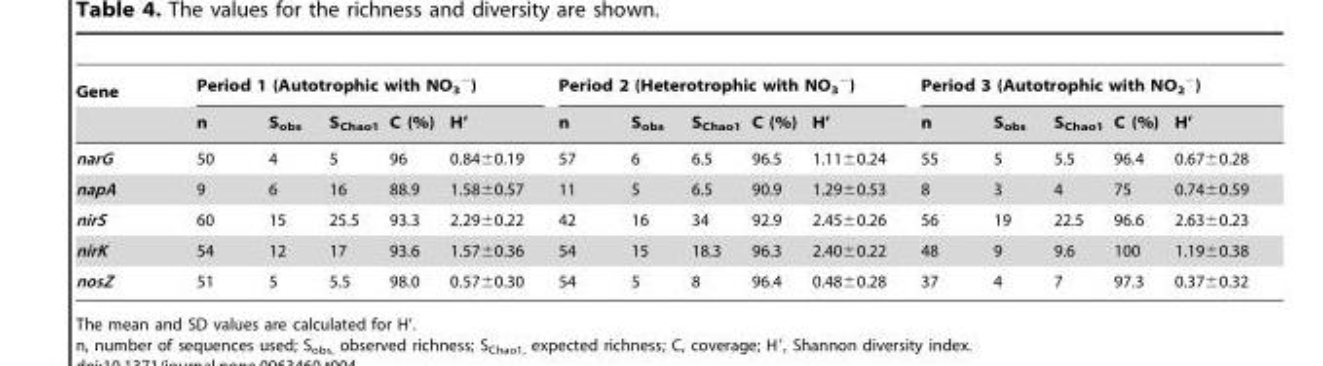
<table><thead><tr><td rowspan="2">Gene</td><td colspan="5">Period 1 (Autotrophic with NO<sub>3</sub> <sup>−</sup>)</td><td colspan="5">Period 2 (Heterotrophic with NO<sub>3</sub> <sup>−</sup>)</td><td colspan="5">Period 3 (Autotrophic with NO<sub>2</sub> <sup>−</sup>)</td></tr><tr><td>n</td><td>S<sub>obs</sub></td><td>S<sub>Chao1</sub></td><td>C (%)</td><td>H’</td><td>n</td><td>S<sub>obs</sub></td><td>S<sub>Chao1</sub></td><td>C (%)</td><td>H’</td><td>n</td><td>S<sub>obs</sub></td><td>S<sub>Chao1</sub></td><td>C (%)</td><td>H’</td></tr></thead><tbody><tr><td>narG</td><td>50</td><td>4</td><td>5</td><td>96</td><td>0.84±0.19</td><td>57</td><td>6</td><td>6.5</td><td>96.5</td><td>1.11±0.24</td><td>55</td><td>5</td><td>5.5</td><td>96.4</td><td>0.67±0.28</td></tr><tr><td>napA</td><td>9</td><td>6</td><td>16</td><td>88.9</td><td>1.58±0.57</td><td>11</td><td>5</td><td>6.5</td><td>90.9</td><td>1.29±0.53</td><td>8</td><td>3</td><td>4</td><td>75</td><td>0.74±0.59</td></tr><tr><td>nirS</td><td>60</td><td>15</td><td>25.5</td><td>93.3</td><td>2.29±0.22</td><td>42</td><td>16</td><td>34</td><td>92.9</td><td>2.45±0.26</td><td>56</td><td>19</td><td>22.5</td><td>96.6</td><td>2.63±0.23</td></tr><tr><td>nirK</td><td>54</td><td>12</td><td>17</td><td>93.6</td><td>1.57±0.36</td><td>54</td><td>15</td><td>18.3</td><td>96.3</td><td>2.40±0.22</td><td>48</td><td>9</td><td>9.6</td><td>100</td><td>1.19±0.38</td></tr><tr><td>nosZ</td><td>51</td><td>5</td><td>5.5</td><td>98.0</td><td>0.57±0.30</td><td>54</td><td>5</td><td>8</td><td>96.4</td><td>0.48±0.28</td><td>37</td><td>4</td><td>7</td><td>97.3</td><td>0.37±0.32</td></tr></tbody></table>